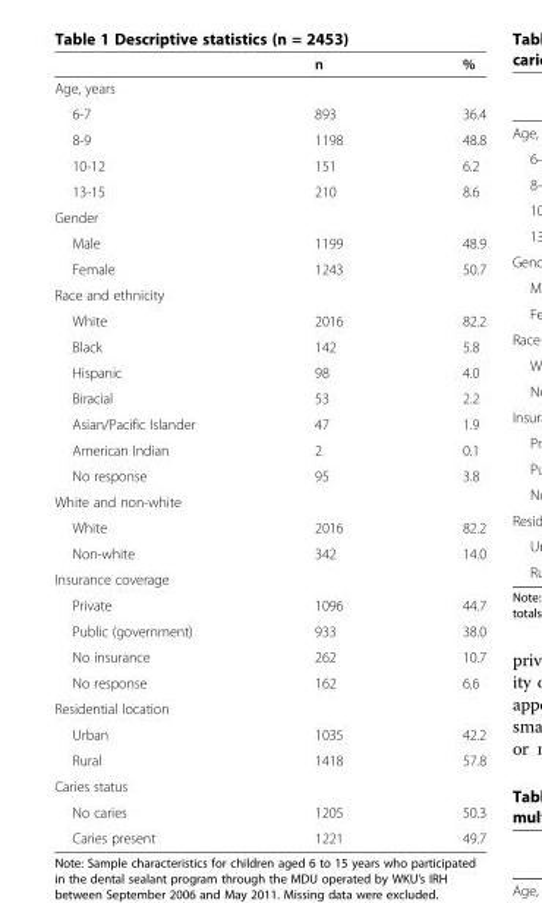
<table><thead><tr><td></td><td>n</td><td>%</td></tr></thead><tbody><tr><td colspan="3">Age, years</td></tr><tr><td>6-7</td><td>893</td><td>36.4</td></tr><tr><td>8-9</td><td>1198</td><td>48.8</td></tr><tr><td>10-12</td><td>151</td><td>6.2</td></tr><tr><td>13-15</td><td>210</td><td>8.6</td></tr><tr><td colspan="3">Gender</td></tr><tr><td>Male</td><td>1199</td><td>48.9</td></tr><tr><td>Female</td><td>1243</td><td>50.7</td></tr><tr><td colspan="3">Race and ethnicity</td></tr><tr><td>White</td><td>2016</td><td>82.2</td></tr><tr><td>Black</td><td>142</td><td>5.8</td></tr><tr><td>Hispanic</td><td>98</td><td>4.0</td></tr><tr><td>Biracial</td><td>53</td><td>2.2</td></tr><tr><td>Asian/Pacific Islander</td><td>47</td><td>1.9</td></tr><tr><td>American Indian</td><td>2</td><td>0.1</td></tr><tr><td>No response</td><td>95</td><td>3.8</td></tr><tr><td colspan="3">White and non-white</td></tr><tr><td>White</td><td>2016</td><td>82.2</td></tr><tr><td>Non-white</td><td>342</td><td>14.0</td></tr><tr><td colspan="3">Insurance coverage</td></tr><tr><td>Private</td><td>1096</td><td>44.7</td></tr><tr><td>Public (government)</td><td>933</td><td>38.0</td></tr><tr><td>No insurance</td><td>262</td><td>10.7</td></tr><tr><td>No response</td><td>162</td><td>6.6</td></tr><tr><td colspan="3">Residential location</td></tr><tr><td>Urban</td><td>1035</td><td>42.2</td></tr><tr><td>Rural</td><td>1418</td><td>57.8</td></tr><tr><td colspan="3">Caries status</td></tr><tr><td>No caries</td><td>1205</td><td>50.3</td></tr><tr><td>Caries present</td><td>1221</td><td>49.7</td></tr></tbody></table>